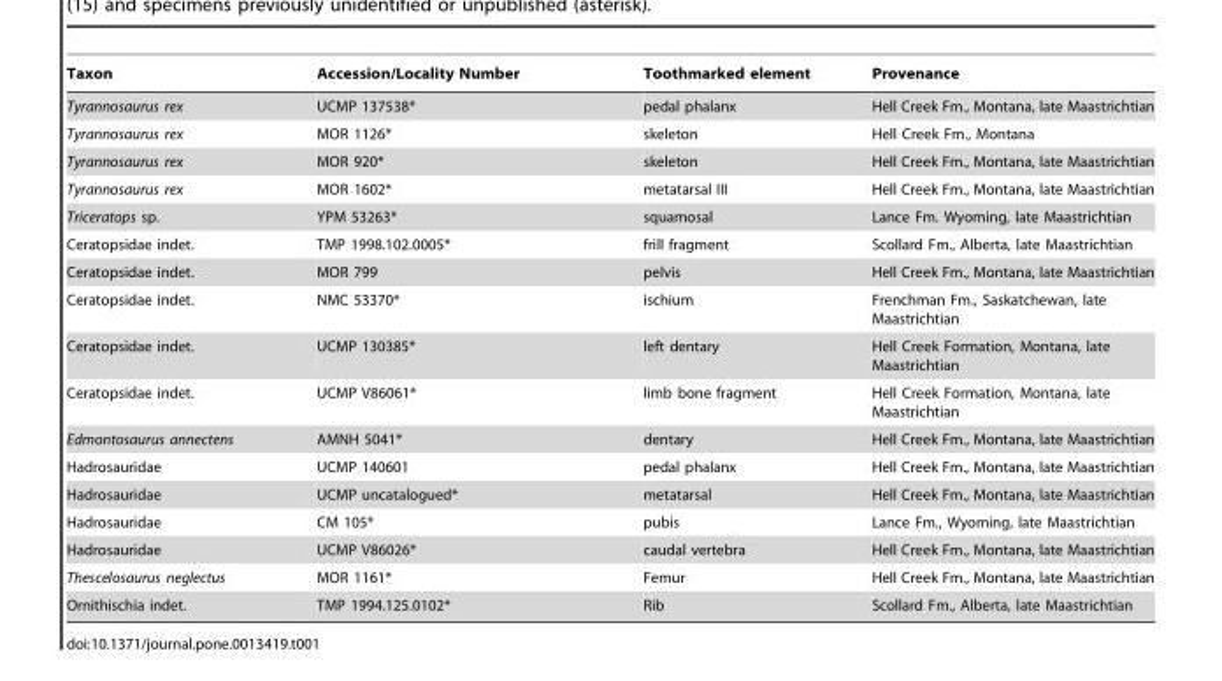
<table><thead><tr><td>Taxon</td><td>Accession/Locality Number</td><td>Toothmarked element</td><td>Provenance</td></tr></thead><tbody><tr><td>Tyrannosaurus rex</td><td>UCMP 137538*</td><td>pedal phalanx</td><td>Hell Creek Fm., Montana, late Maastrichtian</td></tr><tr><td>Tyrannosaurus rex</td><td>MOR 1126*</td><td>skeleton</td><td>Hell Creek Fm., Montana</td></tr><tr><td>Tyrannosaurus rex</td><td>MOR 920*</td><td>skeleton</td><td>Hell Creek Fm., Montana, late Maastrichtian</td></tr><tr><td>Tyrannosaurus rex</td><td>MOR 1602*</td><td>metatarsal III</td><td>Hell Creek Fm., Montana, late Maastrichtian</td></tr><tr><td>Triceratops sp.</td><td>YPM 53263*</td><td>squamosal</td><td>Lance Fm. Wyoming, late Maastrichtian</td></tr><tr><td>Ceratopsidae indet.</td><td>TMP 1998.102.0005*</td><td>frill fragment</td><td>Scollard Fm., Alberta, late Maastrichtian</td></tr><tr><td>Ceratopsidae indet.</td><td>MOR 799</td><td>pelvis</td><td>Hell Creek Fm., Montana, late Maastrichtian</td></tr><tr><td>Ceratopsidae indet.</td><td>NMC 53370*</td><td>ischium</td><td>Frenchman Fm., Saskatchewan, late Maastrichtian</td></tr><tr><td>Ceratopsidae indet.</td><td>UCMP 130385*</td><td>left dentary</td><td>Hell Creek Formation, Montana, late Maastrichtian</td></tr><tr><td>Ceratopsidae indet.</td><td>UCMP V86061*</td><td>limb bone fragment</td><td>Hell Creek Formation, Montana, late Maastrichtian</td></tr><tr><td>Edmontosaurus annectens</td><td>AMNH 5041*</td><td>dentary</td><td>Hell Creek Fm., Montana, late Maastrichtian</td></tr><tr><td>Hadrosauridae</td><td>UCMP 140601</td><td>pedal phalanx</td><td>Hell Creek Fm., Montana, late Maastrichtian</td></tr><tr><td>Hadrosauridae</td><td>UCMP uncatalogued*</td><td>metatarsal</td><td>Hell Creek Fm., Montana, late Maastrichtian</td></tr><tr><td>Hadrosauridae</td><td>CM 105*</td><td>pubis</td><td>Lance Fm., Wyoming, late Maastrichtian</td></tr><tr><td>Hadrosauridae</td><td>UCMP V86026*</td><td>caudal vertebra</td><td>Hell Creek Fm., Montana, late Maastrichtian</td></tr><tr><td>Thescelosaurus neglectus</td><td>MOR 1161*</td><td>Femur</td><td>Hell Creek Fm., Montana, late Maastrichtian</td></tr><tr><td>Ornithischia indet.</td><td>TMP 1994.125.0102*</td><td>Rib</td><td>Scollard Fm., Alberta, late Maastrichtian</td></tr></tbody></table>